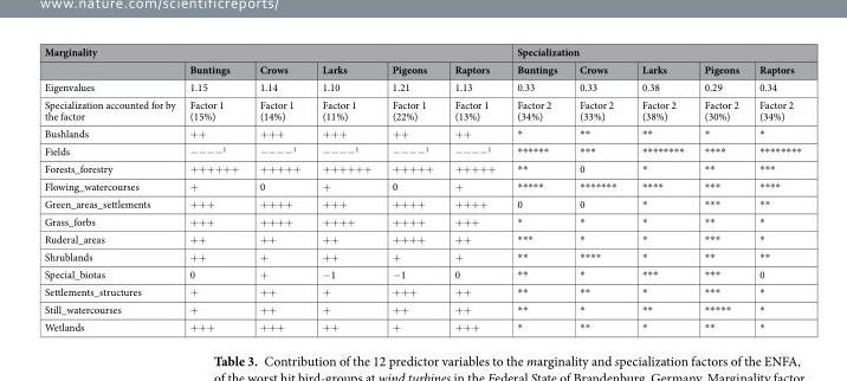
<table><thead><tr><td colspan="6">Marginality</td><td colspan="5">Specialization</td></tr><tr><td></td><td>Buntings</td><td>Crows</td><td>Larks</td><td>Pigeons</td><td>Raptors</td><td>Buntings</td><td>Crows</td><td>Larks</td><td>Pigeons</td><td>Raptors</td></tr></thead><tbody><tr><td>Eigenvalues</td><td>1.15</td><td>1.14</td><td>1.10</td><td>1.21</td><td>1.13</td><td>0.33</td><td>0.33</td><td>0.38</td><td>0.29</td><td>0.34</td></tr><tr><td>Specialization accounted for by the factor</td><td>Factor 1 (15%)</td><td>Factor 1 (14%)</td><td>Factor 1 (11%)</td><td>Factor 1 (22%)</td><td>Factor 1 (13%)</td><td>Factor 2 (34%)</td><td>Factor 2 (33%)</td><td>Factor 2 (38%)</td><td>Factor 2 (30%)</td><td>Factor 2 (34%)</td></tr><tr><td>Bushlands</td><td>++</td><td>+++</td><td>+++</td><td>++</td><td>++</td><td>*</td><td>**</td><td>**</td><td>*</td><td>*</td></tr><tr><td>Fields</td><td>−−−−<sup>1</sup></td><td>−−−−<sup>1</sup></td><td>−−−−<sup>1</sup></td><td>−−−−<sup>1</sup></td><td>−−−−<sup>1</sup></td><td>******</td><td>***</td><td>********</td><td>****</td><td>********</td></tr><tr><td>Forests_forestry</td><td>++++++</td><td>+++++</td><td>++++++</td><td>+++++</td><td>+++++</td><td>**</td><td>0</td><td>*</td><td>**</td><td>***</td></tr><tr><td>Flowing_watercourses</td><td>+</td><td>0</td><td>+</td><td>0</td><td>+</td><td>*****</td><td>*******</td><td>****</td><td>***</td><td>****</td></tr><tr><td>Green_areas_settlements</td><td>+++</td><td>++++</td><td>+++</td><td>++++</td><td>++++</td><td>0</td><td>0</td><td>*</td><td>***</td><td>**</td></tr><tr><td>Grass_forbs</td><td>+++</td><td>++++</td><td>++++</td><td>++++</td><td>+++</td><td>*</td><td>*</td><td>*</td><td>**</td><td>*</td></tr><tr><td>Ruderal_areas</td><td>++</td><td>++</td><td>++</td><td>++++</td><td>++</td><td>***</td><td>*</td><td>*</td><td>***</td><td>*</td></tr><tr><td>Shrublands</td><td>++</td><td>+</td><td>++</td><td>+</td><td>+</td><td>**</td><td>****</td><td>*</td><td>**</td><td>**</td></tr><tr><td>Special_biotas</td><td>0</td><td>+</td><td>−1</td><td>−1</td><td>0</td><td>**</td><td>*</td><td>***</td><td>***</td><td>0</td></tr><tr><td>Settlements_structures</td><td>+</td><td>++</td><td>+</td><td>+++</td><td>++</td><td>**</td><td>**</td><td>*</td><td>***</td><td>*</td></tr><tr><td>Still_watercourses</td><td>+</td><td>++</td><td>+</td><td>++</td><td>++</td><td>**</td><td>*</td><td>**</td><td>*****</td><td>*</td></tr><tr><td>Wetlands</td><td>+++</td><td>+++</td><td>++</td><td>+</td><td>+++</td><td>*</td><td>**</td><td>*</td><td>**</td><td>*</td></tr></tbody></table>